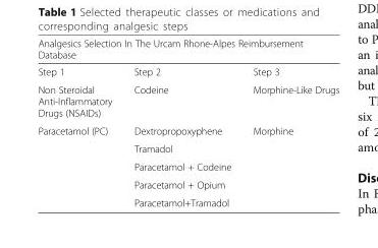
<table><thead><tr><td colspan="3">Analgesics Selection In The Urcam Rhone-Alpes Reimbursement Database</td></tr><tr><td>Step 1</td><td>Step 2</td><td>Step 3</td></tr></thead><tbody><tr><td>Non Steroidal Anti-Inflammatory Drugs (NSAIDs)</td><td>Codeine</td><td>Morphine-Like Drugs</td></tr><tr><td rowspan="5">Paracetamol (PC)</td><td>Dextropropoxyphene</td><td>Morphine</td></tr><tr><td>Tramadol</td><td></td></tr><tr><td>Paracetamol + Codeine</td><td></td></tr><tr><td>Paracetamol + Opium</td><td></td></tr><tr><td>Paracetamol+Tramadol</td><td></td></tr></tbody></table>